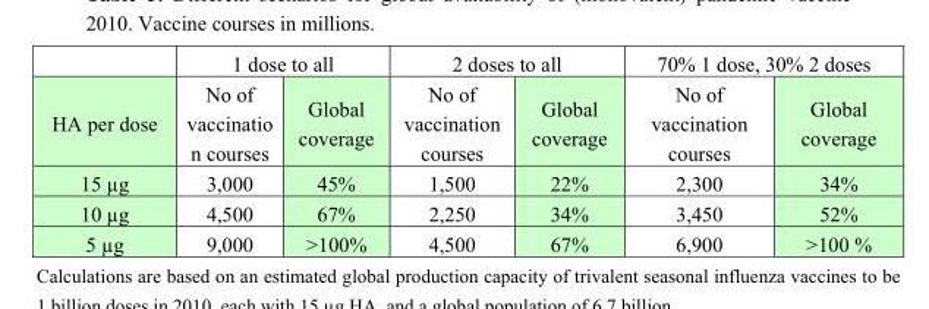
<table><thead><tr><td rowspan="2">HA per dose</td><td colspan="2">1 dose to all</td><td colspan="2">2 doses to all</td><td colspan="2">70% 1 dose, 30% 2 doses</td></tr><tr><td>No of vaccinatio n courses</td><td>Global coverage</td><td>No of vaccination courses</td><td>Global coverage</td><td>No of vaccination courses</td><td>Global coverage</td></tr></thead><tbody><tr><td>15 µg</td><td>3,000</td><td>45%</td><td>1,500</td><td>22%</td><td>2,300</td><td>34%</td></tr><tr><td>10 µg</td><td>4,500</td><td>67%</td><td>2,250</td><td>34%</td><td>3,450</td><td>52%</td></tr><tr><td>5 µg</td><td>9,000</td><td>&gt;100%</td><td>4,500</td><td>67%</td><td>6,900</td><td>&gt;100 %</td></tr></tbody></table>